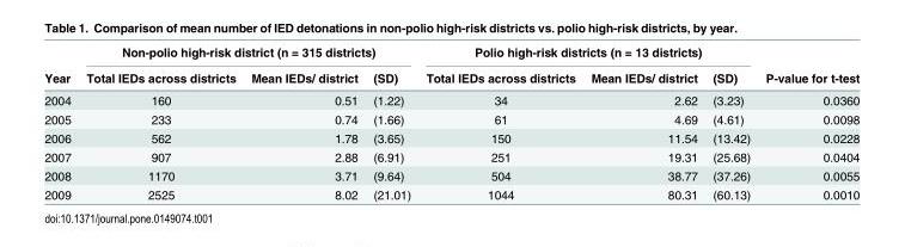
<table><thead><tr><td rowspan="2">Year</td><td colspan="3">Non-polio high-risk district (n = 315 districts)</td><td colspan="3">Polio high-risk districts (n = 13 districts)</td><td rowspan="2">P-value for t-test</td></tr><tr><td>Total IEDs across districts</td><td>Mean IEDs/ district</td><td>(SD)</td><td>Total IEDs across districts</td><td>Mean IEDs/ district</td><td>(SD)</td></tr></thead><tbody><tr><td>2004</td><td>160</td><td>0.51</td><td>(1.22)</td><td>34</td><td>2.62</td><td>(3.23)</td><td>0.0360</td></tr><tr><td>2005</td><td>233</td><td>0.74</td><td>(1.66)</td><td>61</td><td>4.69</td><td>(4.61)</td><td>0.0098</td></tr><tr><td>2006</td><td>562</td><td>1.78</td><td>(3.65)</td><td>150</td><td>11.54</td><td>(13.42)</td><td>0.0228</td></tr><tr><td>2007</td><td>907</td><td>2.88</td><td>(6.91)</td><td>251</td><td>19.31</td><td>(25.68)</td><td>0.0404</td></tr><tr><td>2008</td><td>1170</td><td>3.71</td><td>(9.64)</td><td>504</td><td>38.77</td><td>(37.26)</td><td>0.0055</td></tr><tr><td>2009</td><td>2525</td><td>8.02</td><td>(21.01)</td><td>1044</td><td>80.31</td><td>(60.13)</td><td>0.0010</td></tr></tbody></table>